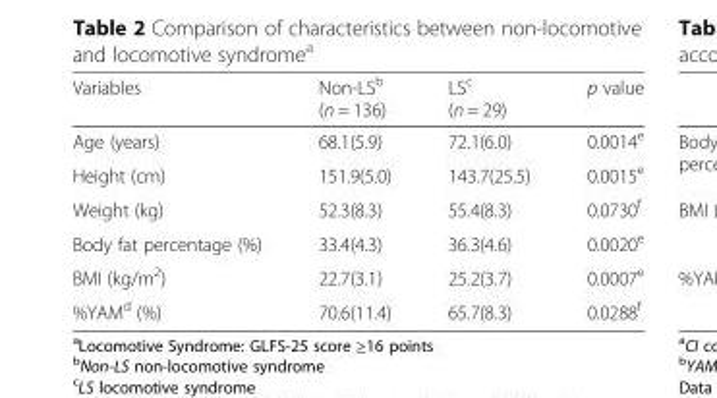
<table><thead><tr><td>Variables</td><td>Non-LS<sup>b</sup> (n = 136)</td><td>LS<sup>c</sup> (n = 29)</td><td>p value</td></tr></thead><tbody><tr><td>Age (years)</td><td>68.1(5.9)</td><td>72.1(6.0)</td><td>0.0014<sup>e</sup></td></tr><tr><td>Height (cm)</td><td>151.9(5.0)</td><td>143.7(25.5)</td><td>0.0015<sup>e</sup></td></tr><tr><td>Weight (kg)</td><td>52.3(8.3)</td><td>55.4(8.3)</td><td>0.0730<sup>f</sup></td></tr><tr><td>Body fat percentage (%)</td><td>33.4(4.3)</td><td>36.3(4.6)</td><td>0.0020<sup>e</sup></td></tr><tr><td>BMI (kg/m<sup>2</sup>)</td><td>22.7(3.1)</td><td>25.2(3.7)</td><td>0.0007<sup>e</sup></td></tr><tr><td>%YAM<sup>d</sup> (%)</td><td>70.6(11.4)</td><td>65.7(8.3)</td><td>0.0288<sup>f</sup></td></tr></tbody></table>